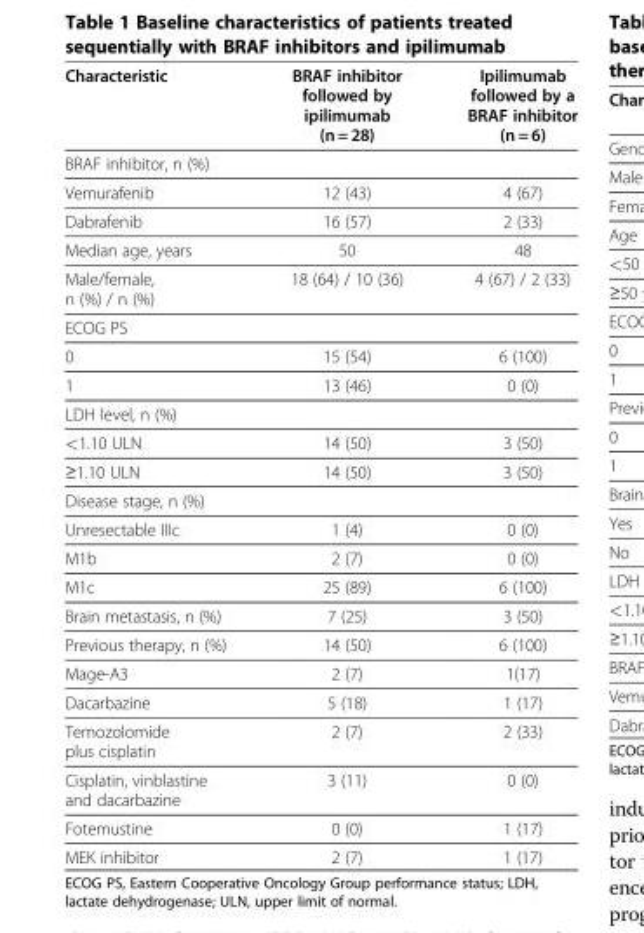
<table><thead><tr><td>Characteristic</td><td>BRAF inhibitor followed by ipilimumab (n = 28)</td><td>Ipilimumab followed by a BRAF inhibitor (n = 6)</td></tr></thead><tbody><tr><td colspan="3">BRAF inhibitor, n (%)</td></tr><tr><td>Vemurafenib</td><td>12 (43)</td><td>4 (67)</td></tr><tr><td>Dabrafenib</td><td>16 (57)</td><td>2 (33)</td></tr><tr><td>Median age, years</td><td>50</td><td>48</td></tr><tr><td>Male/female, n (%) / n (%)</td><td>18 (64) / 10 (36)</td><td>4 (67) / 2 (33)</td></tr><tr><td colspan="3">ECOG PS</td></tr><tr><td>0</td><td>15 (54)</td><td>6 (100)</td></tr><tr><td>1</td><td>13 (46)</td><td>0 (0)</td></tr><tr><td colspan="3">LDH level, n (%)</td></tr><tr><td>&lt;1.10 ULN</td><td>14 (50)</td><td>3 (50)</td></tr><tr><td>≥1.10 ULN</td><td>14 (50)</td><td>3 (50)</td></tr><tr><td colspan="3">Disease stage, n (%)</td></tr><tr><td>Unresectable IIIc</td><td>1 (4)</td><td>0 (0)</td></tr><tr><td>M1b</td><td>2 (7)</td><td>0 (0)</td></tr><tr><td>M1c</td><td>25 (89)</td><td>6 (100)</td></tr><tr><td>Brain metastasis, n (%)</td><td>7 (25)</td><td>3 (50)</td></tr><tr><td>Previous therapy, n (%)</td><td>14 (50)</td><td>6 (100)</td></tr><tr><td>Mage-A3</td><td>2 (7)</td><td>1(17)</td></tr><tr><td>Dacarbazine</td><td>5 (18)</td><td>1 (17)</td></tr><tr><td>Temozolomide plus cisplatin</td><td>2 (7)</td><td>2 (33)</td></tr><tr><td>Cisplatin, vinblastine and dacarbazine</td><td>3 (11)</td><td>0 (0)</td></tr><tr><td>Fotemustine</td><td>0 (0)</td><td>1 (17)</td></tr><tr><td>MEK inhibitor</td><td>2 (7)</td><td>1 (17)</td></tr></tbody></table>